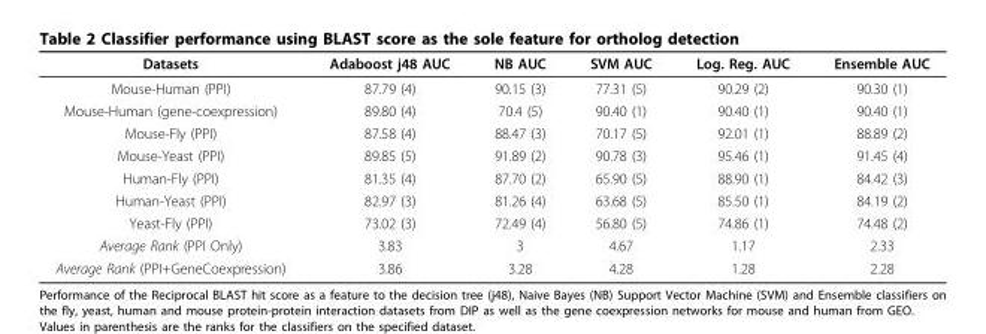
<table><thead><tr><td>Datasets</td><td>Adaboost j48 AUC</td><td>NB AUC</td><td>SVM AUC</td><td>Log. Reg. AUC</td><td>Ensemble AUC</td></tr></thead><tbody><tr><td>Mouse-Human (PPI)</td><td>87.79 (4)</td><td>90.15 (3)</td><td>77.31 (5)</td><td>90.29 (2)</td><td>90.30 (1)</td></tr><tr><td>Mouse-Human (gene-coexpression)</td><td>89.80 (4)</td><td>70.4 (5)</td><td>90.40 (1)</td><td>90.40 (1)</td><td>90.40 (1)</td></tr><tr><td>Mouse-Fly (PPI)</td><td>87.58 (4)</td><td>88.47 (3)</td><td>70.17 (5)</td><td>92.01 (1)</td><td>88.89 (2)</td></tr><tr><td>Mouse-Yeast (PPI)</td><td>89.85 (5)</td><td>91.89 (2)</td><td>90.78 (3)</td><td>95.46 (1)</td><td>91.45 (4)</td></tr><tr><td>Human-Fly (PPI)</td><td>81.35 (4)</td><td>87.70 (2)</td><td>65.90 (5)</td><td>88.90 (1)</td><td>84.42 (3)</td></tr><tr><td>Human-Yeast (PPI)</td><td>82.97 (3)</td><td>81.26 (4)</td><td>63.68 (5)</td><td>85.50 (1)</td><td>84.19 (2)</td></tr><tr><td>Yeast-Fly (PPI)</td><td>73.02 (3)</td><td>72.49 (4)</td><td>56.80 (5)</td><td>74.86 (1)</td><td>74.48 (2)</td></tr><tr><td>Average Rank (PPI Only)</td><td>3.83</td><td>3</td><td>4.67</td><td>1.17</td><td>2.33</td></tr><tr><td>Average Rank (PPI+GeneCoexpression)</td><td>3.86</td><td>3.28</td><td>4.28</td><td>1.28</td><td>2.28</td></tr></tbody></table>